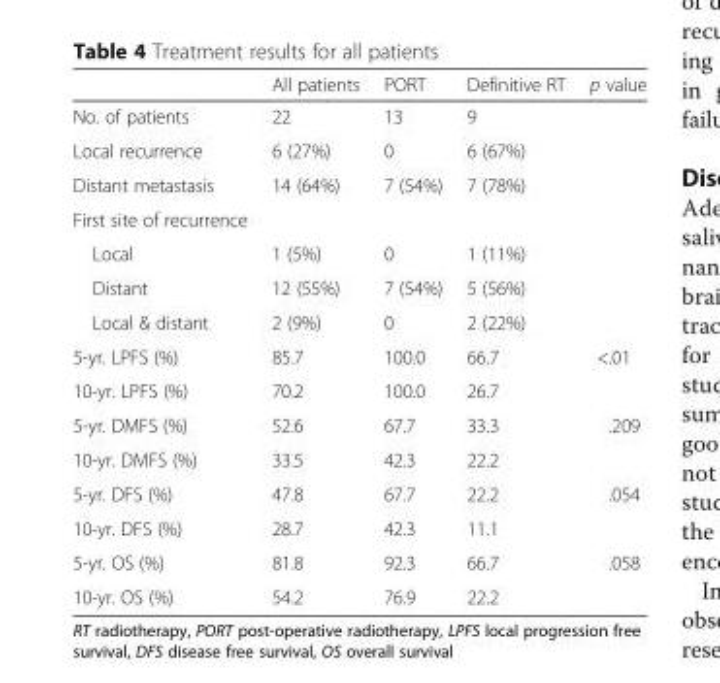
<table><thead><tr><td></td><td>All patients</td><td>PORT</td><td>Definitive RT</td><td>p value</td></tr></thead><tbody><tr><td>No. of patients</td><td>22</td><td>13</td><td>9</td><td></td></tr><tr><td>Local recurrence</td><td>6 (27%)</td><td>0</td><td>6 (67%)</td><td></td></tr><tr><td>Distant metastasis</td><td>14 (64%)</td><td>7 (54%)</td><td>7 (78%)</td><td></td></tr><tr><td colspan="5">First site of recurrence</td></tr><tr><td>Local</td><td>1 (5%)</td><td>0</td><td>1 (11%)</td><td></td></tr><tr><td>Distant</td><td>12 (55%)</td><td>7 (54%)</td><td>5 (56%)</td><td></td></tr><tr><td>Local &amp; distant</td><td>2 (9%)</td><td>0</td><td>2 (22%)</td><td></td></tr><tr><td>5-yr. LPFS (%)</td><td>85.7</td><td>100.0</td><td>66.7</td><td>&lt;.01</td></tr><tr><td>10-yr. LPFS (%)</td><td>70.2</td><td>100.0</td><td>26.7</td><td></td></tr><tr><td>5-yr. DMFS (%)</td><td>52.6</td><td>67.7</td><td>33.3</td><td>.209</td></tr><tr><td>10-yr. DMFS (%)</td><td>33.5</td><td>42.3</td><td>22.2</td><td></td></tr><tr><td>5-yr. DFS (%)</td><td>47.8</td><td>67.7</td><td>22.2</td><td>.054</td></tr><tr><td>10-yr. DFS (%)</td><td>28.7</td><td>42.3</td><td>11.1</td><td></td></tr><tr><td>5-yr. OS (%)</td><td>81.8</td><td>92.3</td><td>66.7</td><td>.058</td></tr><tr><td>10-yr. OS (%)</td><td>54.2</td><td>76.9</td><td>22.2</td><td></td></tr></tbody></table>